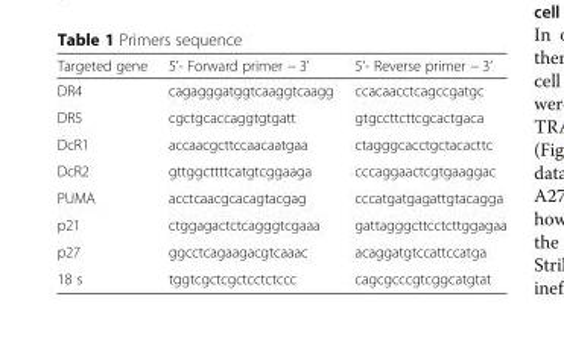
<table><thead><tr><td>Targeted gene</td><td>5’- Forward primer − 3’</td><td>5’- Reverse primer − 3’</td></tr></thead><tbody><tr><td>DR4</td><td>cagagggatggtcaaggtcaagg</td><td>ccacaacctcagccgatgc</td></tr><tr><td>DR5</td><td>cgctgcaccaggtgtgatt</td><td>gtgccttcttcgcactgaca</td></tr><tr><td>DcR1</td><td>accaacgcttccaacaatgaa</td><td>ctagggcacctgctacacttc</td></tr><tr><td>DcR2</td><td>gttggcttttcatgtcggaaga</td><td>cccaggaactcgtgaaggac</td></tr><tr><td>PUMA</td><td>acctcaacgcacagtacgag</td><td>cccatgatgagattgtacagga</td></tr><tr><td>p21</td><td>ctggagactctcagggtcgaaa</td><td>gattagggcttcctcttggagaa</td></tr><tr><td>p27</td><td>ggcctcagaagacgtcaaac</td><td>acaggatgtccattccatga</td></tr><tr><td>18 s</td><td>tggtcgctcgctcctctccc</td><td>cagcgcccgtcggcatgtat</td></tr></tbody></table>